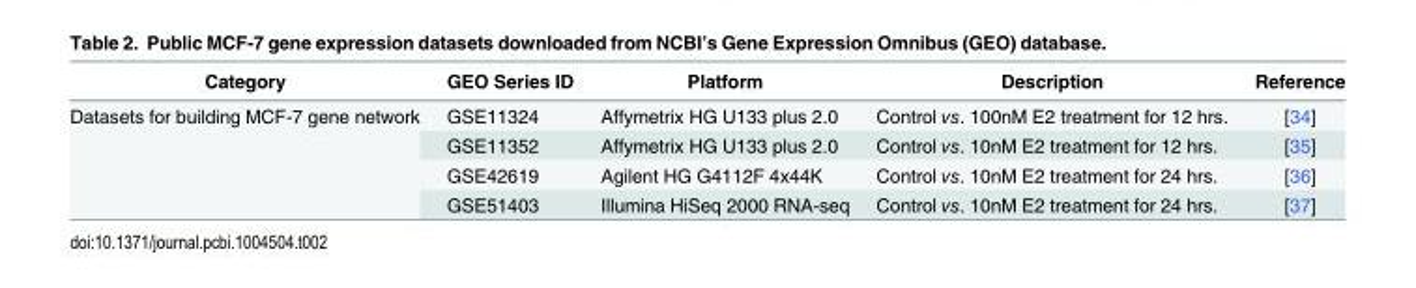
<table><thead><tr><td>Category</td><td>GEO Series ID</td><td>Platform</td><td>Description</td><td>Reference</td></tr></thead><tbody><tr><td rowspan="4">Datasets for building MCF-7 gene network</td><td>GSE11324</td><td>Affymetrix HG U133 plus 2.0</td><td>Control vs. 100nM E2 treatment for 12 hrs.</td><td>[34]</td></tr><tr><td>GSE11352</td><td>Affymetrix HG U133 plus 2.0</td><td>Control vs. 10nM E2 treatment for 12 hrs.</td><td>[35]</td></tr><tr><td>GSE42619</td><td>Agilent HG G4112F 4x44K</td><td>Control vs. 10nM E2 treatment for 24 hrs.</td><td>[36]</td></tr><tr><td>GSE51403</td><td>Illumina HiSeq 2000 RNA-seq</td><td>Control vs. 10nM E2 treatment for 24 hrs.</td><td>[37]</td></tr></tbody></table>